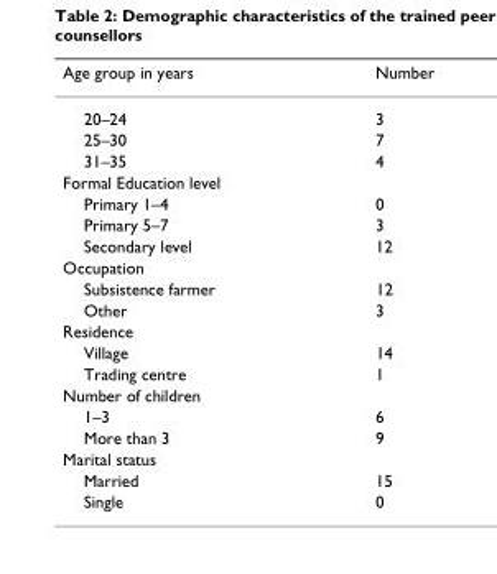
<table><thead><tr><td>Age group in years</td><td>Number</td></tr></thead><tbody><tr><td>20–24</td><td>3</td></tr><tr><td>25–30</td><td>7</td></tr><tr><td>31–35</td><td>4</td></tr><tr><td colspan="2">Formal Education level</td></tr><tr><td>Primary 1–4</td><td>0</td></tr><tr><td>Primary 5–7</td><td>3</td></tr><tr><td>Secondary level</td><td>12</td></tr><tr><td colspan="2">Occupation</td></tr><tr><td>Subsistence farmer</td><td>12</td></tr><tr><td>Other</td><td>3</td></tr><tr><td colspan="2">Residence</td></tr><tr><td>Village</td><td>14</td></tr><tr><td>Trading centre</td><td>1</td></tr><tr><td colspan="2">Number of children</td></tr><tr><td>1–3</td><td>6</td></tr><tr><td>More than 3</td><td>9</td></tr><tr><td colspan="2">Marital status</td></tr><tr><td>Married</td><td>15</td></tr><tr><td>Single</td><td>0</td></tr></tbody></table>